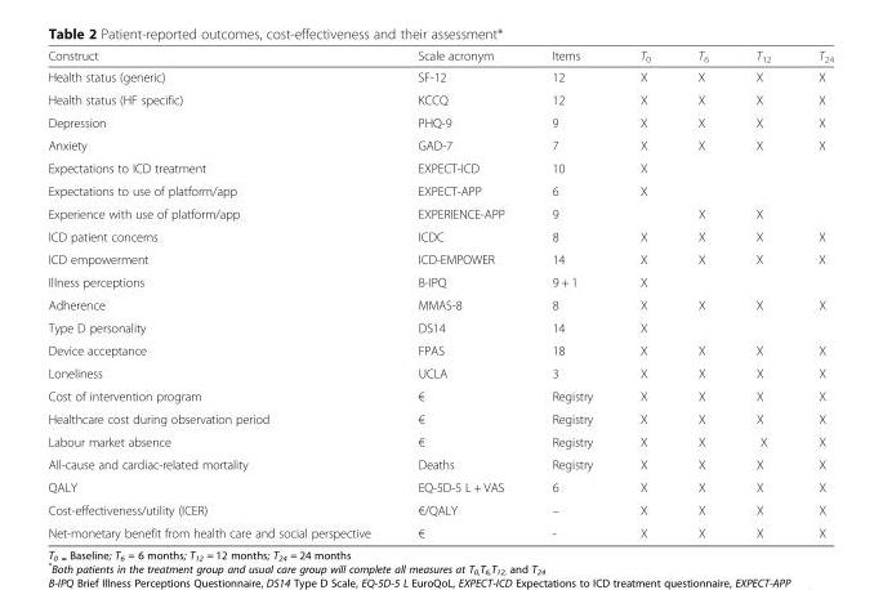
<table><thead><tr><td>Construct</td><td>Scale acronym</td><td>Items</td><td>T<sub>0</sub></td><td>T<sub>6</sub></td><td>T<sub>12</sub></td><td>T<sub>24</sub></td></tr></thead><tbody><tr><td>Health status (generic)</td><td>SF-12</td><td>12</td><td>X</td><td>X</td><td>X</td><td>X</td></tr><tr><td>Health status (HF specific)</td><td>KCCQ</td><td>12</td><td>X</td><td>X</td><td>X</td><td>X</td></tr><tr><td>Depression</td><td>PHQ-9</td><td>9</td><td>X</td><td>X</td><td>X</td><td>X</td></tr><tr><td>Anxiety</td><td>GAD-7</td><td>7</td><td>X</td><td>X</td><td>X</td><td>X</td></tr><tr><td>Expectations to ICD treatment</td><td>EXPECT-ICD</td><td>10</td><td>X</td><td></td><td></td><td></td></tr><tr><td>Expectations to use of platform/app</td><td>EXPECT-APP</td><td>6</td><td>X</td><td></td><td></td><td></td></tr><tr><td>Experience with use of platform/app</td><td>EXPERIENCE-APP</td><td>9</td><td></td><td>X</td><td>X</td><td></td></tr><tr><td>ICD patient concerns</td><td>ICDC</td><td>8</td><td>X</td><td>X</td><td>X</td><td>X</td></tr><tr><td>ICD empowerment</td><td>ICD-EMPOWER</td><td>14</td><td>X</td><td>X</td><td>X</td><td>X</td></tr><tr><td>Illness perceptions</td><td>B-IPQ</td><td>9 + 1</td><td>X</td><td></td><td></td><td></td></tr><tr><td>Adherence</td><td>MMAS-8</td><td>8</td><td>X</td><td>X</td><td>X</td><td>X</td></tr><tr><td>Type D personality</td><td>DS14</td><td>14</td><td>X</td><td></td><td></td><td></td></tr><tr><td>Device acceptance</td><td>FPAS</td><td>18</td><td>X</td><td>X</td><td>X</td><td>X</td></tr><tr><td>Loneliness</td><td>UCLA</td><td>3</td><td>X</td><td>X</td><td>X</td><td>X</td></tr><tr><td>Cost of intervention program</td><td>€</td><td>Registry</td><td>X</td><td>X</td><td>X</td><td>X</td></tr><tr><td>Healthcare cost during observation period</td><td>€</td><td>Registry</td><td>X</td><td>X</td><td>X</td><td>X</td></tr><tr><td>Labour market absence</td><td>€</td><td>Registry</td><td>X</td><td>X</td><td>X</td><td>X</td></tr><tr><td>All-cause and cardiac-related mortality</td><td>Deaths</td><td>Registry</td><td>X</td><td>X</td><td>X</td><td>X</td></tr><tr><td>QALY</td><td>EQ-5D-5 L + VAS</td><td>6</td><td>X</td><td>X</td><td>X</td><td>X</td></tr><tr><td>Cost-effectiveness/utility (ICER)</td><td>€/QALY</td><td>–</td><td>X</td><td>X</td><td>X</td><td>X</td></tr><tr><td>Net-monetary benefit from health care and social perspective</td><td>€</td><td>-</td><td>X</td><td>X</td><td>X</td><td>X</td></tr></tbody></table>